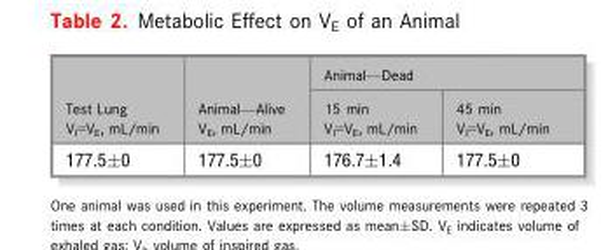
<table><thead><tr><td rowspan="2">Test Lung V<sub>I</sub>=V<sub>E</sub>, mL/min</td><td rowspan="2">Animal—Alive V<sub>E</sub>, mL/min</td><td colspan="2">Animal—Dead</td></tr><tr><td>15 min V<sub>I</sub>=V<sub>E</sub>, mL/min</td><td>45 min V<sub>I</sub>=V<sub>E</sub>, mL/min</td></tr></thead><tbody><tr><td>177.5±0</td><td>177.5±0</td><td>176.7±1.4</td><td>177.5±0</td></tr></tbody></table>